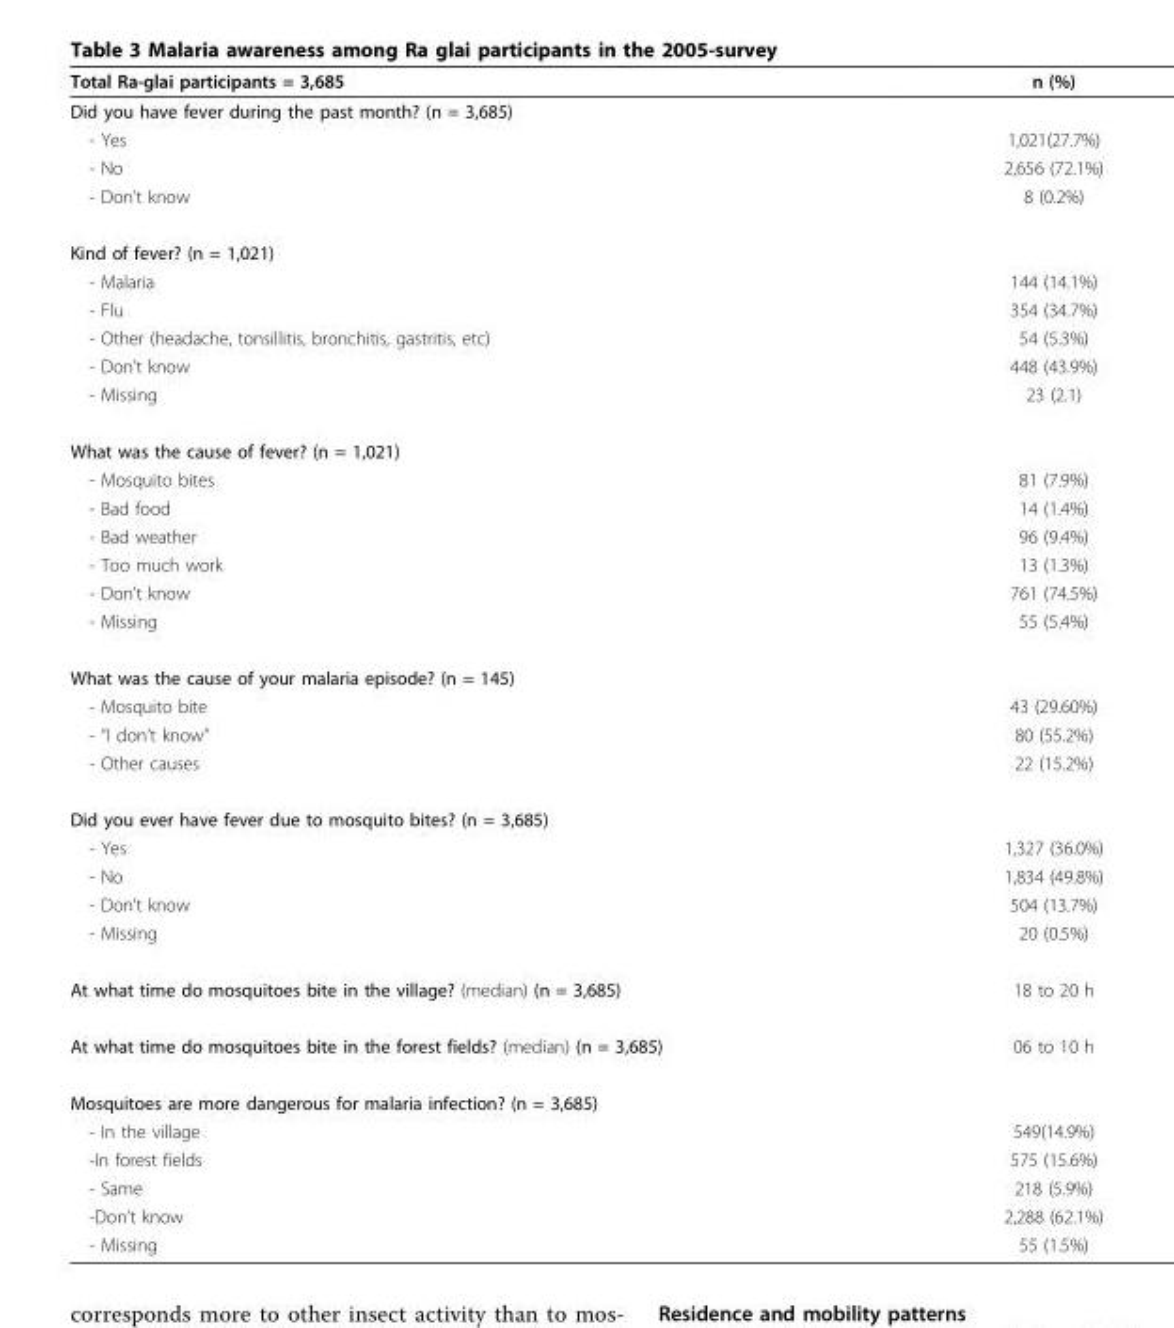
<table><thead><tr><td>Total Ra-glai participants = 3,685</td><td>n (%)</td></tr></thead><tbody><tr><td colspan="2">Did you have fever during the past month? (n = 3,685)</td></tr><tr><td>- Yes</td><td>1,021(27.7%)</td></tr><tr><td>- No</td><td>2,656 (72.1%)</td></tr><tr><td>- Don’t know</td><td>8 (0.2%)</td></tr><tr><td colspan="2">Kind of fever? (n = 1,021)</td></tr><tr><td>- Malaria</td><td>144 (14.1%)</td></tr><tr><td>- Flu</td><td>354 (34.7%)</td></tr><tr><td>- Other (headache, tonsillitis, bronchitis, gastritis, etc)</td><td>54 (5.3%)</td></tr><tr><td>- Don’t know</td><td>448 (43.9%)</td></tr><tr><td>- Missing</td><td>23 (2.1)</td></tr><tr><td colspan="2">What was the cause of fever? (n = 1,021)</td></tr><tr><td>- Mosquito bites</td><td>81 (7.9%)</td></tr><tr><td>- Bad food</td><td>14 (1.4%)</td></tr><tr><td>- Bad weather</td><td>96 (9.4%)</td></tr><tr><td>- Too much work</td><td>13 (1.3%)</td></tr><tr><td>- Don’t know</td><td>761 (74.5%)</td></tr><tr><td>- Missing</td><td>55 (5.4%)</td></tr><tr><td colspan="2">What was the cause of your malaria episode? (n = 145)</td></tr><tr><td>- Mosquito bite</td><td>43 (29.60%)</td></tr><tr><td>- “I don’t know”</td><td>80 (55.2%)</td></tr><tr><td>- Other causes</td><td>22 (15.2%)</td></tr><tr><td colspan="2">Did you ever have fever due to mosquito bites? (n = 3,685)</td></tr><tr><td>- Yes</td><td>1,327 (36.0%)</td></tr><tr><td>- No</td><td>1,834 (49.8%)</td></tr><tr><td>- Don’t know</td><td>504 (13.7%)</td></tr><tr><td>- Missing</td><td>20 (0.5%)</td></tr><tr><td>At what time do mosquitoes bite in the village? (median) (n = 3,685)</td><td>18 to 20 h</td></tr><tr><td>At what time do mosquitoes bite in the forest fields? (median) (n = 3,685)</td><td>06 to 10 h</td></tr><tr><td colspan="2">Mosquitoes are more dangerous for malaria infection? (n = 3,685)</td></tr><tr><td>- In the village</td><td>549(14.9%)</td></tr><tr><td>-In forest fields</td><td>575 (15.6%)</td></tr><tr><td>- Same</td><td>218 (5.9%)</td></tr><tr><td>-Don’t know</td><td>2,288 (62.1%)</td></tr><tr><td>- Missing</td><td>55 (1.5%)</td></tr></tbody></table>